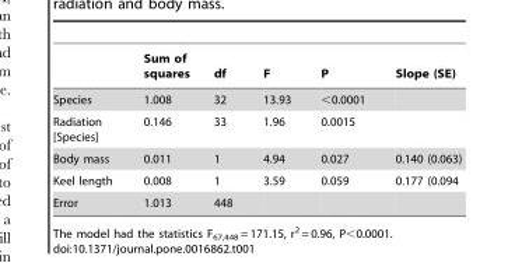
<table><thead><tr><td></td><td>Sum of squares</td><td>df</td><td>F</td><td>P</td><td>Slope (SE)</td></tr></thead><tbody><tr><td>Species</td><td>1.008</td><td>32</td><td>13.93</td><td>&lt;0.0001</td><td></td></tr><tr><td>Radiation [Species]</td><td>0.146</td><td>33</td><td>1.96</td><td>0.0015</td><td></td></tr><tr><td>Body mass</td><td>0.011</td><td>1</td><td>4.94</td><td>0.027</td><td>0.140 (0.063)</td></tr><tr><td>Keel length</td><td>0.008</td><td>1</td><td>3.59</td><td>0.059</td><td>0.177 (0.094</td></tr><tr><td>Error</td><td>1.013</td><td>448</td><td></td><td></td><td></td></tr></tbody></table>